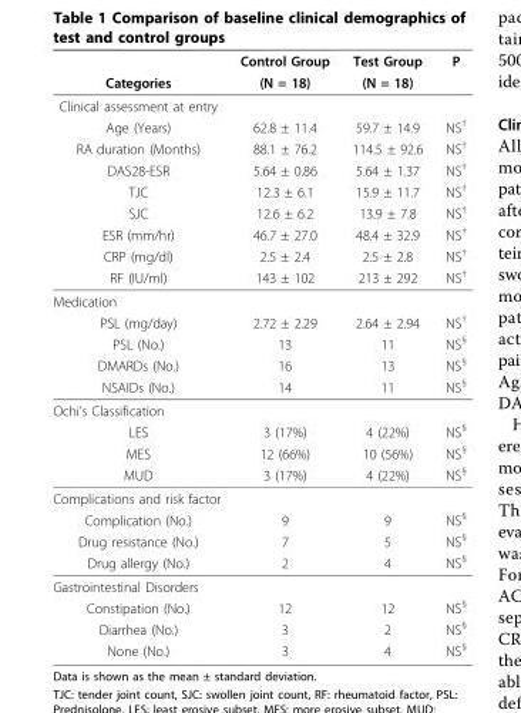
<table><thead><tr><td rowspan="2">Categories</td><td rowspan="2">Control Group (N = 18)</td><td rowspan="2">Test Group (N = 18)</td><td rowspan="2">P</td></tr><tr></tr></thead><tbody><tr><td colspan="4">Clinical assessment at entry</td></tr><tr><td>Age (Years)</td><td>62.8 ± 11.4</td><td>59.7 ± 14.9</td><td>NS<sup>†</sup></td></tr><tr><td>RA duration (Months)</td><td>88.1 ± 76.2</td><td>114.5 ± 92.6</td><td>NS<sup>†</sup></td></tr><tr><td>DAS28-ESR</td><td>5.64 ± 0.86</td><td>5.64 ± 1.37</td><td>NS<sup>†</sup></td></tr><tr><td>TJC</td><td>12.3 ± 6.1</td><td>15.9 ± 11.7</td><td>NS<sup>†</sup></td></tr><tr><td>SJC</td><td>12.6 ± 6.2</td><td>13.9 ± 7.8</td><td>NS<sup>†</sup></td></tr><tr><td>ESR (mm/hr)</td><td>46.7 ± 27.0</td><td>48.4 ± 32.9</td><td>NS<sup>†</sup></td></tr><tr><td>CRP (mg/dl)</td><td>2.5 ± 2.4</td><td>2.5 ± 2.8</td><td>NS<sup>†</sup></td></tr><tr><td>RF (IU/ml)</td><td>143 ± 102</td><td>213 ± 292</td><td>NS<sup>†</sup></td></tr><tr><td colspan="4">Medication</td></tr><tr><td>PSL (mg/day)</td><td>2.72 ± 2.29</td><td>2.64 ± 2.94</td><td>NS<sup>†</sup></td></tr><tr><td>PSL (No.)</td><td>13</td><td>11</td><td>NS<sup>§</sup></td></tr><tr><td>DMARDs (No.)</td><td>16</td><td>13</td><td>NS<sup>§</sup></td></tr><tr><td>NSAIDs (No.)</td><td>14</td><td>11</td><td>NS<sup>§</sup></td></tr><tr><td colspan="4">Ochi’s Classification</td></tr><tr><td>LES</td><td>3 (17%)</td><td>4 (22%)</td><td>NS<sup>§</sup></td></tr><tr><td>MES</td><td>12 (66%)</td><td>10 (56%)</td><td>NS<sup>§</sup></td></tr><tr><td>MUD</td><td>3 (17%)</td><td>4 (22%)</td><td>NS<sup>§</sup></td></tr><tr><td colspan="4">Complications and risk factor</td></tr><tr><td>Complication (No.)</td><td>9</td><td>9</td><td>NS<sup>§</sup></td></tr><tr><td>Drug resistance (No.)</td><td>7</td><td>5</td><td>NS<sup>§</sup></td></tr><tr><td>Drug allergy (No.)</td><td>2</td><td>4</td><td>NS<sup>§</sup></td></tr><tr><td colspan="4">Gastrointestinal Disorders</td></tr><tr><td>Constipation (No.)</td><td>12</td><td>12</td><td>NS<sup>§</sup></td></tr><tr><td>Diarrhea (No.)</td><td>3</td><td>2</td><td>NS<sup>§</sup></td></tr><tr><td>None (No.)</td><td>3</td><td>4</td><td>NS<sup>§</sup></td></tr></tbody></table>